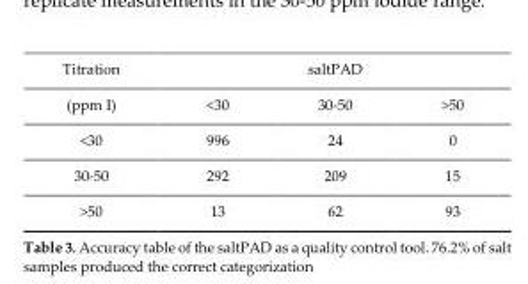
<table><tbody><tr><td>Titration</td><td></td><td>saltPAD</td><td></td></tr><tr><td>(ppm I)</td><td>&lt;30</td><td>30-50</td><td>&gt;50</td></tr><tr><td>&lt;30</td><td>996</td><td>24</td><td>0</td></tr><tr><td>30-50</td><td>292</td><td>209</td><td>15</td></tr><tr><td>&gt;50</td><td>13</td><td>62</td><td>93</td></tr></tbody></table>